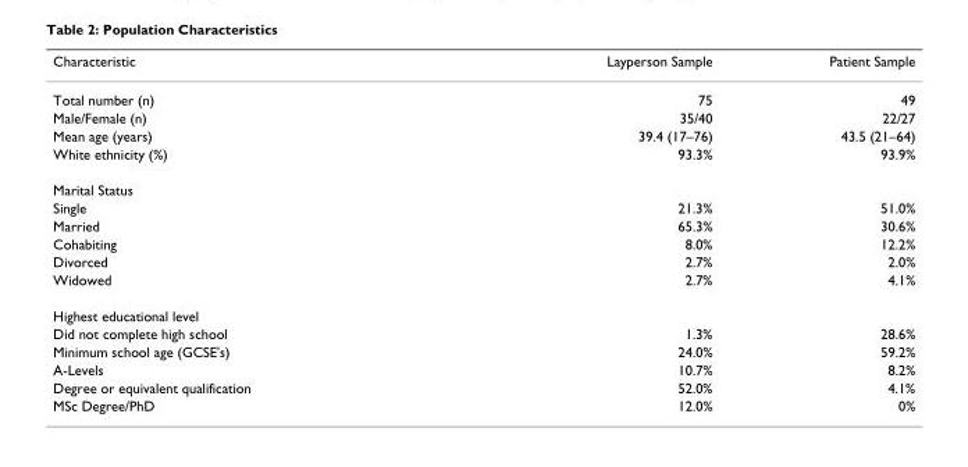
<table><thead><tr><td>Characteristic</td><td>Layperson Sample</td><td>Patient Sample</td></tr></thead><tbody><tr><td>Total number (n)</td><td>75</td><td>49</td></tr><tr><td>Male/Female (n)</td><td>35/40</td><td>22/27</td></tr><tr><td>Mean age (years)</td><td>39.4 (17–76)</td><td>43.5 (21–64)</td></tr><tr><td>White ethnicity (%)</td><td>93.3%</td><td>93.9%</td></tr><tr><td colspan="3">Marital Status</td></tr><tr><td>Single</td><td>21.3%</td><td>51.0%</td></tr><tr><td>Married</td><td>65.3%</td><td>30.6%</td></tr><tr><td>Cohabiting</td><td>8.0%</td><td>12.2%</td></tr><tr><td>Divorced</td><td>2.7%</td><td>2.0%</td></tr><tr><td>Widowed</td><td>2.7%</td><td>4.1%</td></tr><tr><td colspan="3">Highest educational level</td></tr><tr><td>Did not complete high school</td><td>1.3%</td><td>28.6%</td></tr><tr><td>Minimum school age (GCSE&#x27;s)</td><td>24.0%</td><td>59.2%</td></tr><tr><td>A-Levels</td><td>10.7%</td><td>8.2%</td></tr><tr><td>Degree or equivalent qualification</td><td>52.0%</td><td>4.1%</td></tr><tr><td>MSc Degree/PhD</td><td>12.0%</td><td>0%</td></tr></tbody></table>